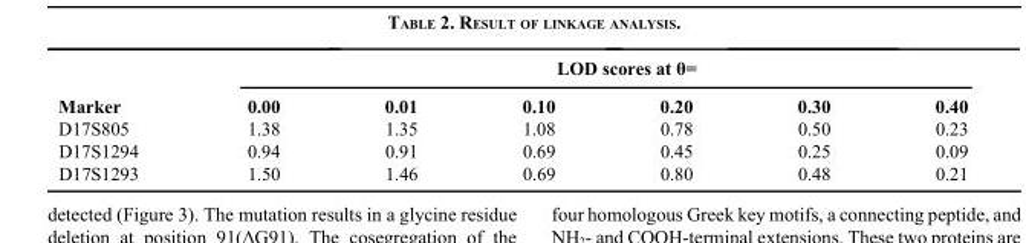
<table><thead><tr><td rowspan="2">Marker</td><td colspan="6">LOD scores at θ=</td></tr><tr><td>0.00</td><td>0.01</td><td>0.10</td><td>0.20</td><td>0.30</td><td>0.40</td></tr></thead><tbody><tr><td>D17S805</td><td>1.38</td><td>1.35</td><td>1.08</td><td>0.78</td><td>0.50</td><td>0.23</td></tr><tr><td>D17S1294</td><td>0.94</td><td>0.91</td><td>0.69</td><td>0.45</td><td>0.25</td><td>0.09</td></tr><tr><td>D17S1293</td><td>1.50</td><td>1.46</td><td>0.69</td><td>0.80</td><td>0.48</td><td>0.21</td></tr></tbody></table>